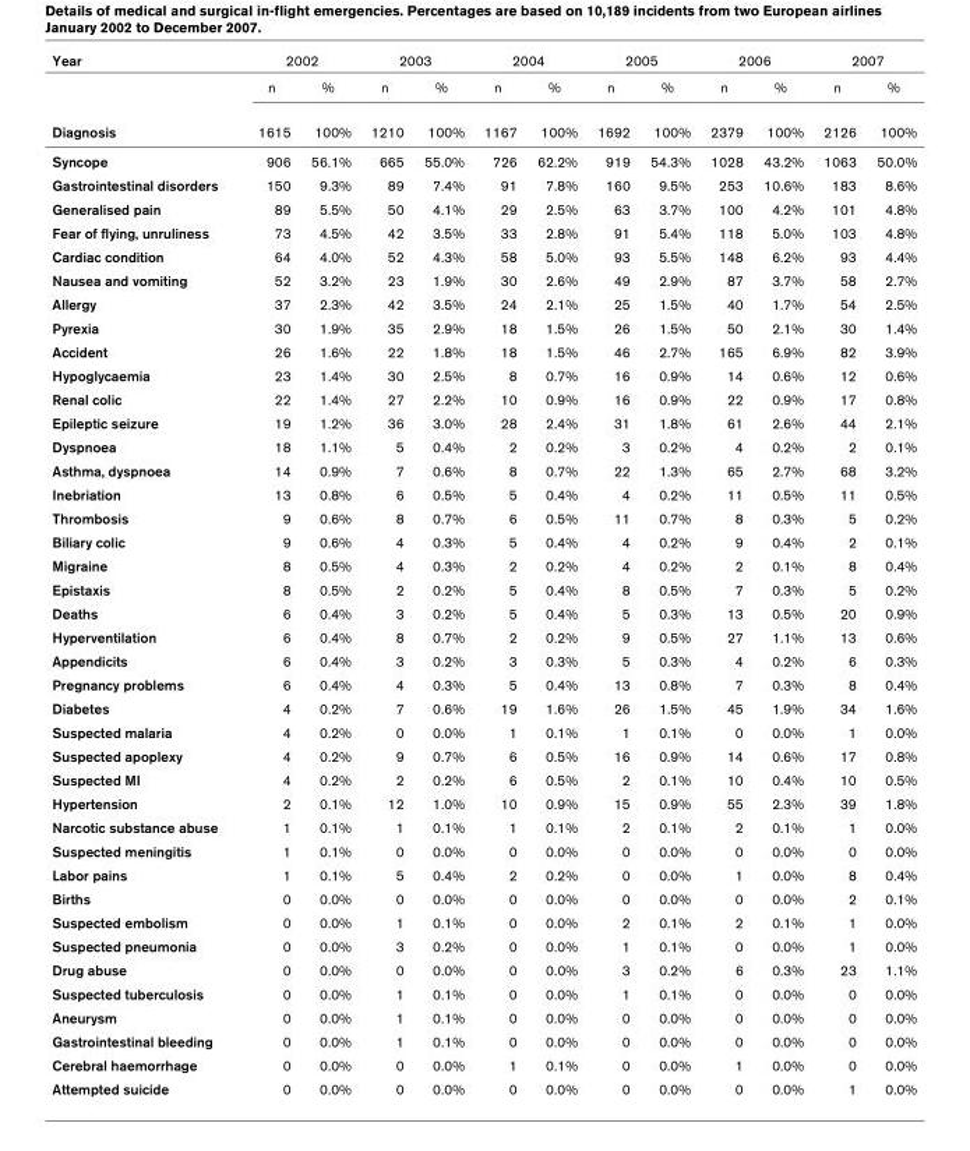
<table><thead><tr><td rowspan="2">Year</td><td colspan="2">2002</td><td colspan="2">2003</td><td colspan="2">2004</td><td colspan="2">2005</td><td colspan="2">2006</td><td colspan="2">2007</td></tr><tr><td>n</td><td>%</td><td>n</td><td>%</td><td>n</td><td>%</td><td>n</td><td>%</td><td>n</td><td>%</td><td>n</td><td>%</td></tr></thead><tbody><tr><td>Diagnosis</td><td>1615</td><td>100%</td><td>1210</td><td>100%</td><td>1167</td><td>100%</td><td>1692</td><td>100%</td><td>2379</td><td>100%</td><td>2126</td><td>100%</td></tr><tr><td>Syncope</td><td>906</td><td>56.1%</td><td>665</td><td>55.0%</td><td>726</td><td>62.2%</td><td>919</td><td>54.3%</td><td>1028</td><td>43.2%</td><td>1063</td><td>50.0%</td></tr><tr><td>Gastrointestinal disorders</td><td>150</td><td>9.3%</td><td>89</td><td>7.4%</td><td>91</td><td>7.8%</td><td>160</td><td>9.5%</td><td>253</td><td>10.6%</td><td>183</td><td>8.6%</td></tr><tr><td>Generalised pain</td><td>89</td><td>5.5%</td><td>50</td><td>4.1%</td><td>29</td><td>2.5%</td><td>63</td><td>3.7%</td><td>100</td><td>4.2%</td><td>101</td><td>4.8%</td></tr><tr><td>Fear of flying, unruliness</td><td>73</td><td>4.5%</td><td>42</td><td>3.5%</td><td>33</td><td>2.8%</td><td>91</td><td>5.4%</td><td>118</td><td>5.0%</td><td>103</td><td>4.8%</td></tr><tr><td>Cardiac condition</td><td>64</td><td>4.0%</td><td>52</td><td>4.3%</td><td>58</td><td>5.0%</td><td>93</td><td>5.5%</td><td>148</td><td>6.2%</td><td>93</td><td>4.4%</td></tr><tr><td>Nausea and vomiting</td><td>52</td><td>3.2%</td><td>23</td><td>1.9%</td><td>30</td><td>2.6%</td><td>49</td><td>2.9%</td><td>87</td><td>3.7%</td><td>58</td><td>2.7%</td></tr><tr><td>Allergy</td><td>37</td><td>2.3%</td><td>42</td><td>3.5%</td><td>24</td><td>2.1%</td><td>25</td><td>1.5%</td><td>40</td><td>1.7%</td><td>54</td><td>2.5%</td></tr><tr><td>Pyrexia</td><td>30</td><td>1.9%</td><td>35</td><td>2.9%</td><td>18</td><td>1.5%</td><td>26</td><td>1.5%</td><td>50</td><td>2.1%</td><td>30</td><td>1.4%</td></tr><tr><td>Accident</td><td>26</td><td>1.6%</td><td>22</td><td>1.8%</td><td>18</td><td>1.5%</td><td>46</td><td>2.7%</td><td>165</td><td>6.9%</td><td>82</td><td>3.9%</td></tr><tr><td>Hypoglycaemia</td><td>23</td><td>1.4%</td><td>30</td><td>2.5%</td><td>8</td><td>0.7%</td><td>16</td><td>0.9%</td><td>14</td><td>0.6%</td><td>12</td><td>0.6%</td></tr><tr><td>Renal colic</td><td>22</td><td>1.4%</td><td>27</td><td>2.2%</td><td>10</td><td>0.9%</td><td>16</td><td>0.9%</td><td>22</td><td>0.9%</td><td>17</td><td>0.8%</td></tr><tr><td>Epileptic seizure</td><td>19</td><td>1.2%</td><td>36</td><td>3.0%</td><td>28</td><td>2.4%</td><td>31</td><td>1.8%</td><td>61</td><td>2.6%</td><td>44</td><td>2.1%</td></tr><tr><td>Dyspnoea</td><td>18</td><td>1.1%</td><td>5</td><td>0.4%</td><td>2</td><td>0.2%</td><td>3</td><td>0.2%</td><td>4</td><td>0.2%</td><td>2</td><td>0.1%</td></tr><tr><td>Asthma, dyspnoea</td><td>14</td><td>0.9%</td><td>7</td><td>0.6%</td><td>8</td><td>0.7%</td><td>22</td><td>1.3%</td><td>65</td><td>2.7%</td><td>68</td><td>3.2%</td></tr><tr><td>Inebriation</td><td>13</td><td>0.8%</td><td>6</td><td>0.5%</td><td>5</td><td>0.4%</td><td>4</td><td>0.2%</td><td>11</td><td>0.5%</td><td>11</td><td>0.5%</td></tr><tr><td>Thrombosis</td><td>9</td><td>0.6%</td><td>8</td><td>0.7%</td><td>6</td><td>0.5%</td><td>11</td><td>0.7%</td><td>8</td><td>0.3%</td><td>5</td><td>0.2%</td></tr><tr><td>Biliary colic</td><td>9</td><td>0.6%</td><td>4</td><td>0.3%</td><td>5</td><td>0.4%</td><td>4</td><td>0.2%</td><td>9</td><td>0.4%</td><td>2</td><td>0.1%</td></tr><tr><td>Migraine</td><td>8</td><td>0.5%</td><td>4</td><td>0.3%</td><td>2</td><td>0.2%</td><td>4</td><td>0.2%</td><td>2</td><td>0.1%</td><td>8</td><td>0.4%</td></tr><tr><td>Epistaxis</td><td>8</td><td>0.5%</td><td>2</td><td>0.2%</td><td>5</td><td>0.4%</td><td>8</td><td>0.5%</td><td>7</td><td>0.3%</td><td>5</td><td>0.2%</td></tr><tr><td>Deaths</td><td>6</td><td>0.4%</td><td>3</td><td>0.2%</td><td>5</td><td>0.4%</td><td>5</td><td>0.3%</td><td>13</td><td>0.5%</td><td>20</td><td>0.9%</td></tr><tr><td>Hyperventilation</td><td>6</td><td>0.4%</td><td>8</td><td>0.7%</td><td>2</td><td>0.2%</td><td>9</td><td>0.5%</td><td>27</td><td>1.1%</td><td>13</td><td>0.6%</td></tr><tr><td>Appendicits</td><td>6</td><td>0.4%</td><td>3</td><td>0.2%</td><td>3</td><td>0.3%</td><td>5</td><td>0.3%</td><td>4</td><td>0.2%</td><td>6</td><td>0.3%</td></tr><tr><td>Pregnancy problems</td><td>6</td><td>0.4%</td><td>4</td><td>0.3%</td><td>5</td><td>0.4%</td><td>13</td><td>0.8%</td><td>7</td><td>0.3%</td><td>8</td><td>0.4%</td></tr><tr><td>Diabetes</td><td>4</td><td>0.2%</td><td>7</td><td>0.6%</td><td>19</td><td>1.6%</td><td>26</td><td>1.5%</td><td>45</td><td>1.9%</td><td>34</td><td>1.6%</td></tr><tr><td>Suspected malaria</td><td>4</td><td>0.2%</td><td>0</td><td>0.0%</td><td>1</td><td>0.1%</td><td>1</td><td>0.1%</td><td>0</td><td>0.0%</td><td>1</td><td>0.0%</td></tr><tr><td>Suspected apoplexy</td><td>4</td><td>0.2%</td><td>9</td><td>0.7%</td><td>6</td><td>0.5%</td><td>16</td><td>0.9%</td><td>14</td><td>0.6%</td><td>17</td><td>0.8%</td></tr><tr><td>Suspected MI</td><td>4</td><td>0.2%</td><td>2</td><td>0.2%</td><td>6</td><td>0.5%</td><td>2</td><td>0.1%</td><td>10</td><td>0.4%</td><td>10</td><td>0.5%</td></tr><tr><td>Hypertension</td><td>2</td><td>0.1%</td><td>12</td><td>1.0%</td><td>10</td><td>0.9%</td><td>15</td><td>0.9%</td><td>55</td><td>2.3%</td><td>39</td><td>1.8%</td></tr><tr><td>Narcotic substance abuse</td><td>1</td><td>0.1%</td><td>1</td><td>0.1%</td><td>1</td><td>0.1%</td><td>2</td><td>0.1%</td><td>2</td><td>0.1%</td><td>1</td><td>0.0%</td></tr><tr><td>Suspected meningitis</td><td>1</td><td>0.1%</td><td>0</td><td>0.0%</td><td>0</td><td>0.0%</td><td>0</td><td>0.0%</td><td>0</td><td>0.0%</td><td>0</td><td>0.0%</td></tr><tr><td>Labor pains</td><td>1</td><td>0.1%</td><td>5</td><td>0.4%</td><td>2</td><td>0.2%</td><td>0</td><td>0.0%</td><td>1</td><td>0.0%</td><td>8</td><td>0.4%</td></tr><tr><td>Births</td><td>0</td><td>0.0%</td><td>0</td><td>0.0%</td><td>0</td><td>0.0%</td><td>0</td><td>0.0%</td><td>0</td><td>0.0%</td><td>2</td><td>0.1%</td></tr><tr><td>Suspected embolism</td><td>0</td><td>0.0%</td><td>1</td><td>0.1%</td><td>0</td><td>0.0%</td><td>2</td><td>0.1%</td><td>2</td><td>0.1%</td><td>1</td><td>0.0%</td></tr><tr><td>Suspected pneumonia</td><td>0</td><td>0.0%</td><td>3</td><td>0.2%</td><td>0</td><td>0.0%</td><td>1</td><td>0.1%</td><td>0</td><td>0.0%</td><td>1</td><td>0.0%</td></tr><tr><td>Drug abuse</td><td>0</td><td>0.0%</td><td>0</td><td>0.0%</td><td>0</td><td>0.0%</td><td>3</td><td>0.2%</td><td>6</td><td>0.3%</td><td>23</td><td>1.1%</td></tr><tr><td>Suspected tuberculosis</td><td>0</td><td>0.0%</td><td>1</td><td>0.1%</td><td>0</td><td>0.0%</td><td>1</td><td>0.1%</td><td>0</td><td>0.0%</td><td>0</td><td>0.0%</td></tr><tr><td>Aneurysm</td><td>0</td><td>0.0%</td><td>1</td><td>0.1%</td><td>0</td><td>0.0%</td><td>0</td><td>0.0%</td><td>0</td><td>0.0%</td><td>0</td><td>0.0%</td></tr><tr><td>Gastrointestinal bleeding</td><td>0</td><td>0.0%</td><td>1</td><td>0.1%</td><td>0</td><td>0.0%</td><td>0</td><td>0.0%</td><td>0</td><td>0.0%</td><td>0</td><td>0.0%</td></tr><tr><td>Cerebral haemorrhage</td><td>0</td><td>0.0%</td><td>0</td><td>0.0%</td><td>1</td><td>0.1%</td><td>0</td><td>0.0%</td><td>1</td><td>0.0%</td><td>0</td><td>0.0%</td></tr><tr><td>Attempted suicide</td><td>0</td><td>0.0%</td><td>0</td><td>0.0%</td><td>0</td><td>0.0%</td><td>0</td><td>0.0%</td><td>0</td><td>0.0%</td><td>1</td><td>0.0%</td></tr></tbody></table>